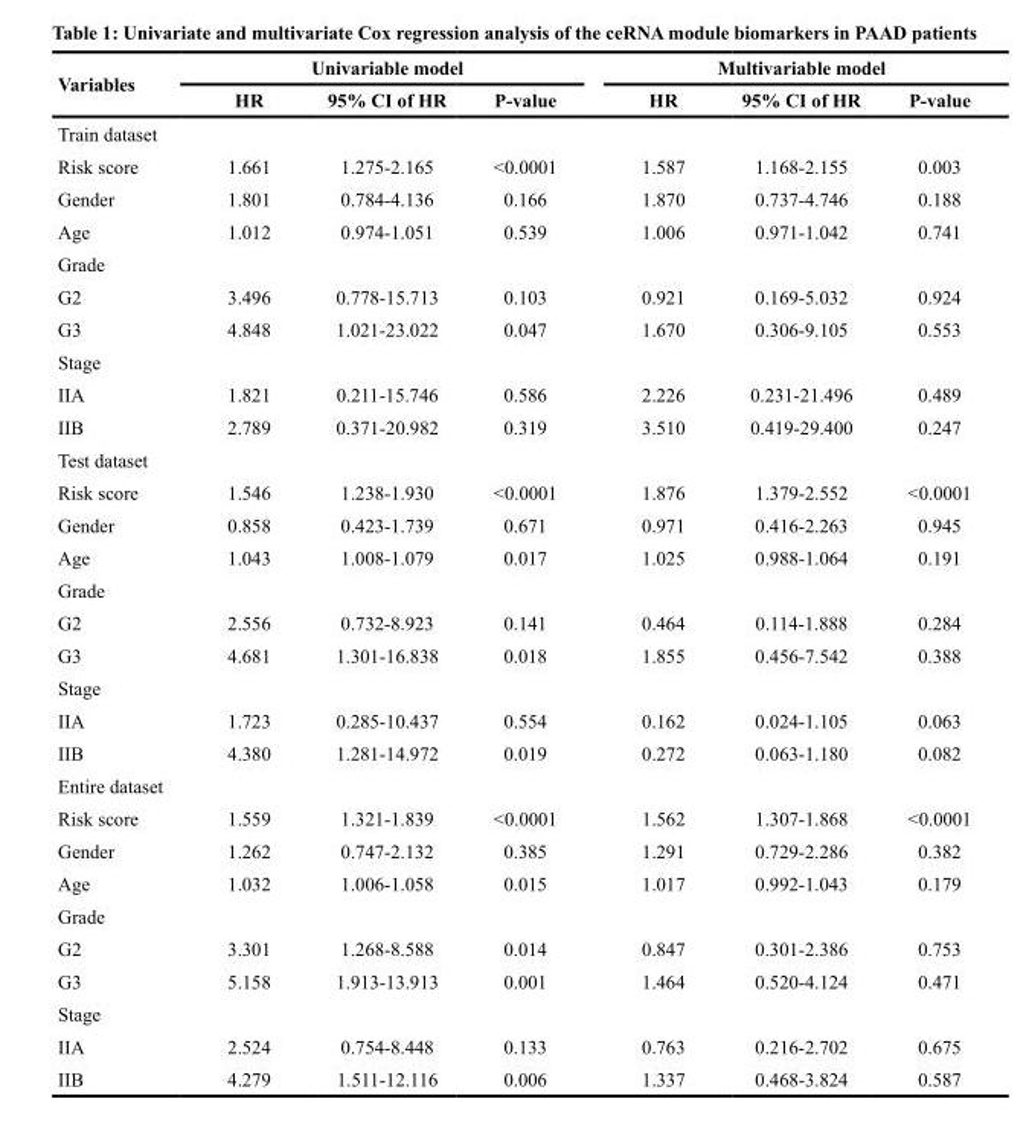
<table><thead><tr><td rowspan="2">Variables</td><td colspan="3">Univariable model</td><td colspan="3">Multivariable model</td></tr><tr><td>HR</td><td>95% CI of HR</td><td>P-value</td><td>HR</td><td>95% CI of HR</td><td>P-value</td></tr></thead><tbody><tr><td colspan="7">Train dataset</td></tr><tr><td>Risk score</td><td>1.661</td><td>1.275-2.165</td><td>&lt;0.0001</td><td>1.587</td><td>1.168-2.155</td><td>0.003</td></tr><tr><td>Gender</td><td>1.801</td><td>0.784-4.136</td><td>0.166</td><td>1.870</td><td>0.737-4.746</td><td>0.188</td></tr><tr><td>Age</td><td>1.012</td><td>0.974-1.051</td><td>0.539</td><td>1.006</td><td>0.971-1.042</td><td>0.741</td></tr><tr><td colspan="7">Grade</td></tr><tr><td>G2</td><td>3.496</td><td>0.778-15.713</td><td>0.103</td><td>0.921</td><td>0.169-5.032</td><td>0.924</td></tr><tr><td>G3</td><td>4.848</td><td>1.021-23.022</td><td>0.047</td><td>1.670</td><td>0.306-9.105</td><td>0.553</td></tr><tr><td colspan="7">Stage</td></tr><tr><td>IIA</td><td>1.821</td><td>0.211-15.746</td><td>0.586</td><td>2.226</td><td>0.231-21.496</td><td>0.489</td></tr><tr><td>IIB</td><td>2.789</td><td>0.371-20.982</td><td>0.319</td><td>3.510</td><td>0.419-29.400</td><td>0.247</td></tr><tr><td colspan="7">Test dataset</td></tr><tr><td>Risk score</td><td>1.546</td><td>1.238-1.930</td><td>&lt;0.0001</td><td>1.876</td><td>1.379-2.552</td><td>&lt;0.0001</td></tr><tr><td>Gender</td><td>0.858</td><td>0.423-1.739</td><td>0.671</td><td>0.971</td><td>0.416-2.263</td><td>0.945</td></tr><tr><td>Age</td><td>1.043</td><td>1.008-1.079</td><td>0.017</td><td>1.025</td><td>0.988-1.064</td><td>0.191</td></tr><tr><td colspan="7">Grade</td></tr><tr><td>G2</td><td>2.556</td><td>0.732-8.923</td><td>0.141</td><td>0.464</td><td>0.114-1.888</td><td>0.284</td></tr><tr><td>G3</td><td>4.681</td><td>1.301-16.838</td><td>0.018</td><td>1.855</td><td>0.456-7.542</td><td>0.388</td></tr><tr><td colspan="7">Stage</td></tr><tr><td>IIA</td><td>1.723</td><td>0.285-10.437</td><td>0.554</td><td>0.162</td><td>0.024-1.105</td><td>0.063</td></tr><tr><td>IIB</td><td>4.380</td><td>1.281-14.972</td><td>0.019</td><td>0.272</td><td>0.063-1.180</td><td>0.082</td></tr><tr><td colspan="7">Entire dataset</td></tr><tr><td>Risk score</td><td>1.559</td><td>1.321-1.839</td><td>&lt;0.0001</td><td>1.562</td><td>1.307-1.868</td><td>&lt;0.0001</td></tr><tr><td>Gender</td><td>1.262</td><td>0.747-2.132</td><td>0.385</td><td>1.291</td><td>0.729-2.286</td><td>0.382</td></tr><tr><td>Age</td><td>1.032</td><td>1.006-1.058</td><td>0.015</td><td>1.017</td><td>0.992-1.043</td><td>0.179</td></tr><tr><td colspan="7">Grade</td></tr><tr><td>G2</td><td>3.301</td><td>1.268-8.588</td><td>0.014</td><td>0.847</td><td>0.301-2.386</td><td>0.753</td></tr><tr><td>G3</td><td>5.158</td><td>1.913-13.913</td><td>0.001</td><td>1.464</td><td>0.520-4.124</td><td>0.471</td></tr><tr><td colspan="7">Stage</td></tr><tr><td>IIA</td><td>2.524</td><td>0.754-8.448</td><td>0.133</td><td>0.763</td><td>0.216-2.702</td><td>0.675</td></tr><tr><td>IIB</td><td>4.279</td><td>1.511-12.116</td><td>0.006</td><td>1.337</td><td>0.468-3.824</td><td>0.587</td></tr></tbody></table>